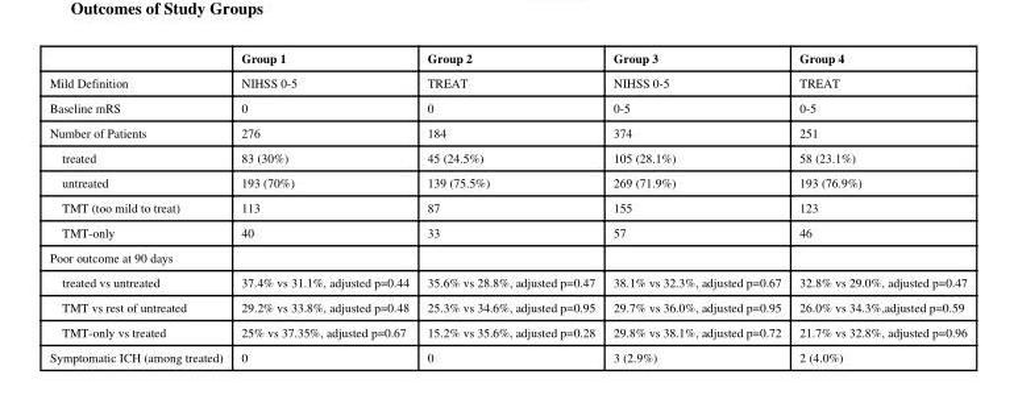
<table><thead><tr><td></td><td>Group 1</td><td>Group 2</td><td>Group 3</td><td>Group 4</td></tr></thead><tbody><tr><td>Mild Definition</td><td>NIHSS 0-5</td><td>TREAT</td><td>NIHSS 0-5</td><td>TREAT</td></tr><tr><td>Baseline mRS</td><td>0</td><td>0</td><td>0-5</td><td>0-5</td></tr><tr><td>Number of Patients</td><td>276</td><td>184</td><td>374</td><td>251</td></tr><tr><td>treated</td><td>83 (30%)</td><td>45 (24.5%)</td><td>105 (28.1%)</td><td>58 (23.1%)</td></tr><tr><td>untreated</td><td>193 (70%)</td><td>139 (75.5%)</td><td>269 (71.9%)</td><td>193 (76.9%)</td></tr><tr><td>TMT (too mild to treat)</td><td>113</td><td>87</td><td>155</td><td>123</td></tr><tr><td>TMT-only</td><td>40</td><td>33</td><td>57</td><td>46</td></tr><tr><td colspan="5">Poor outcome at 90 days</td></tr><tr><td>treated vs untreated</td><td>37.4% vs 31.1%, adjusted p=0.44</td><td>35.6% vs 28.8%, adjusted p=0.47</td><td>38.1% vs 32.3%, adjusted p=0.67</td><td>32.8% vs 29.0%, adjusted p=0.47</td></tr><tr><td>TMT vs rest of untreated</td><td>29.2% vs 33.8%, adjusted p=0.48</td><td>25.3% vs 34.6%, adjusted p=0.95</td><td>29.7% vs 36.0%, adjusted p=0.95</td><td>26.0% vs 34.3%,adjusted p=0.59</td></tr><tr><td>TMT-only vs treated</td><td>25% vs 37.35%, adjusted p=0.67</td><td>15.2% vs 35.6%, adjusted p=0.28</td><td>29.8% vs 38.1%, adjusted p=0.72</td><td>21.7% vs 32.8%, adjusted p=0.96</td></tr><tr><td>Symptomatic ICH (among treated)</td><td>0</td><td>0</td><td>3 (2.9%)</td><td>2 (4.0%)</td></tr></tbody></table>